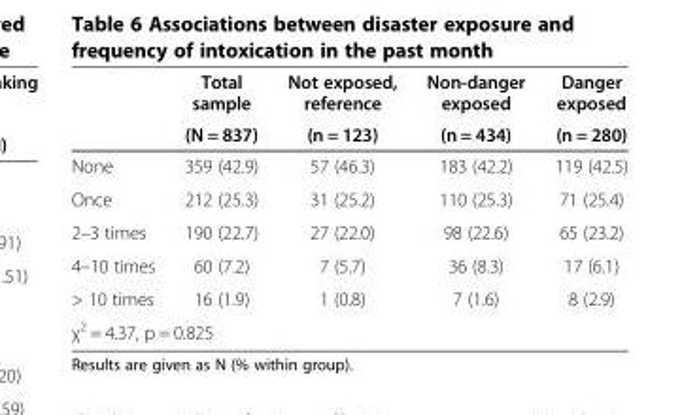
<table><thead><tr><td rowspan="2"></td><td rowspan="2">Total sample (N = 837)</td><td rowspan="2">Not exposed, reference (n = 123)</td><td rowspan="2">Non-danger exposed (n = 434)</td><td rowspan="2">Danger exposed (n = 280)</td></tr><tr></tr></thead><tbody><tr><td>None</td><td>359 (42.9)</td><td>57 (46.3)</td><td>183 (42.2)</td><td>119 (42.5)</td></tr><tr><td>Once</td><td>212 (25.3)</td><td>31 (25.2)</td><td>110 (25.3)</td><td>71 (25.4)</td></tr><tr><td>2–3 times</td><td>190 (22.7)</td><td>27 (22.0)</td><td>98 (22.6)</td><td>65 (23.2)</td></tr><tr><td>4–10 times</td><td>60 (7.2)</td><td>7 (5.7)</td><td>36 (8.3)</td><td>17 (6.1)</td></tr><tr><td>&gt; 10 times</td><td>16 (1.9)</td><td>1 (0.8)</td><td>7 (1.6)</td><td>8 (2.9)</td></tr><tr><td colspan="5">χ<sup>2</sup> = 4.37, p = 0.825</td></tr></tbody></table>